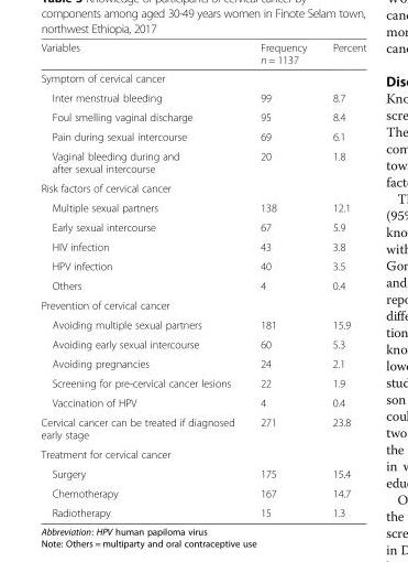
<table><thead><tr><td>Variables</td><td>Frequency n = 1137</td><td>Percent</td></tr></thead><tbody><tr><td colspan="3">Symptom of cervical cancer</td></tr><tr><td>Inter menstrual bleeding</td><td>99</td><td>8.7</td></tr><tr><td>Foul smelling vaginal discharge</td><td>95</td><td>8.4</td></tr><tr><td>Pain during sexual intercourse</td><td>69</td><td>6.1</td></tr><tr><td>Vaginal bleeding during and after sexual intercourse</td><td>20</td><td>1.8</td></tr><tr><td colspan="3">Risk factors of cervical cancer</td></tr><tr><td>Multiple sexual partners</td><td>138</td><td>12.1</td></tr><tr><td>Early sexual intercourse</td><td>67</td><td>5.9</td></tr><tr><td>HIV infection</td><td>43</td><td>3.8</td></tr><tr><td>HPV infection</td><td>40</td><td>3.5</td></tr><tr><td>Others</td><td>4</td><td>0.4</td></tr><tr><td colspan="3">Prevention of cervical cancer</td></tr><tr><td>Avoiding multiple sexual partners</td><td>181</td><td>15.9</td></tr><tr><td>Avoiding early sexual intercourse</td><td>60</td><td>5.3</td></tr><tr><td>Avoiding pregnancies</td><td>24</td><td>2.1</td></tr><tr><td>Screening for pre-cervical cancer lesions</td><td>22</td><td>1.9</td></tr><tr><td>Vaccination of HPV</td><td>4</td><td>0.4</td></tr><tr><td>Cervical cancer can be treated if diagnosed early stage</td><td>271</td><td>23.8</td></tr><tr><td colspan="3">Treatment for cervical cancer</td></tr><tr><td>Surgery</td><td>175</td><td>15.4</td></tr><tr><td>Chemotherapy</td><td>167</td><td>14.7</td></tr><tr><td>Radiotherapy</td><td>15</td><td>1.3</td></tr></tbody></table>